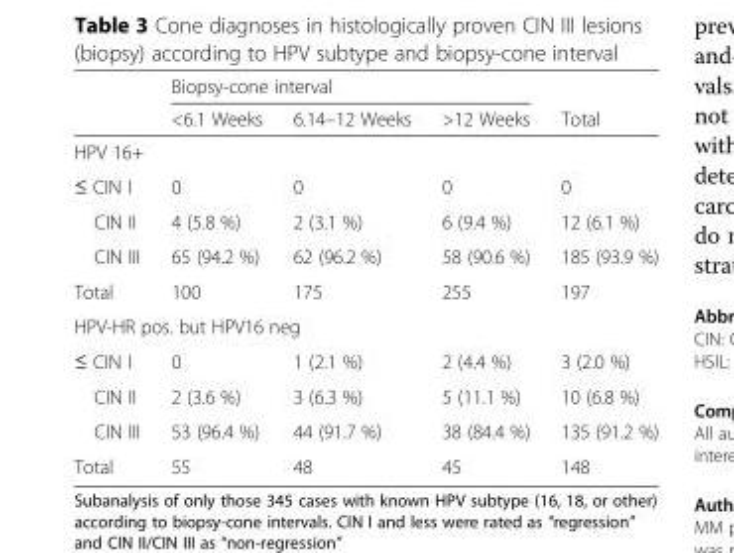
<table><thead><tr><td rowspan="2"></td><td colspan="3">Biopsy-cone interval</td><td rowspan="2">Total</td></tr><tr><td>&lt;6.1 Weeks</td><td>6.14–12 Weeks</td><td>&gt;12 Weeks</td></tr></thead><tbody><tr><td colspan="5">HPV 16+</td></tr><tr><td>≤ CIN I</td><td>0</td><td>0</td><td>0</td><td>0</td></tr><tr><td>CIN II</td><td>4 (5.8 %)</td><td>2 (3.1 %)</td><td>6 (9.4 %)</td><td>12 (6.1 %)</td></tr><tr><td>CIN III</td><td>65 (94.2 %)</td><td>62 (96.2 %)</td><td>58 (90.6 %)</td><td>185 (93.9 %)</td></tr><tr><td>Total</td><td>100</td><td>175</td><td>255</td><td>197</td></tr><tr><td colspan="5">HPV-HR pos. but HPV16 neg</td></tr><tr><td>≤ CIN I</td><td>0</td><td>1 (2.1 %)</td><td>2 (4.4 %)</td><td>3 (2.0 %)</td></tr><tr><td>CIN II</td><td>2 (3.6 %)</td><td>3 (6.3 %)</td><td>5 (11.1 %)</td><td>10 (6.8 %)</td></tr><tr><td>CIN III</td><td>53 (96.4 %)</td><td>44 (91.7 %)</td><td>38 (84.4 %)</td><td>135 (91.2 %)</td></tr><tr><td>Total</td><td>55</td><td>48</td><td>45</td><td>148</td></tr></tbody></table>